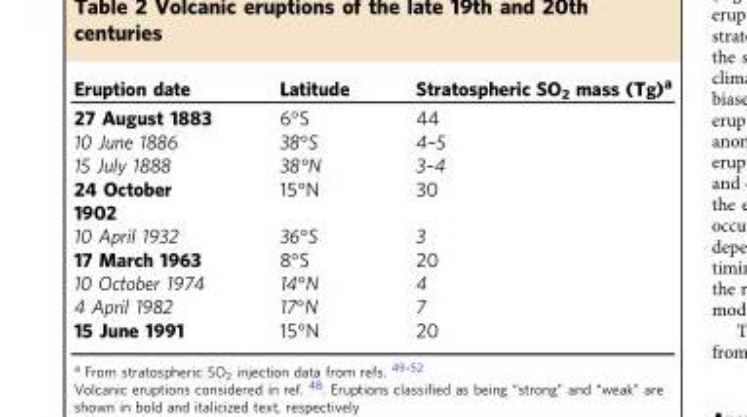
<table><thead><tr><td>Eruption date</td><td>Latitude</td><td>Stratospheric SO<sub>2</sub> mass (Tg)<sup>a</sup></td></tr></thead><tbody><tr><td>27 August 1883</td><td>6°S</td><td>44</td></tr><tr><td>10 June 1886</td><td>38°S</td><td>4–5</td></tr><tr><td>15 July 1888</td><td>38°N</td><td>3–4</td></tr><tr><td>24 October 1902</td><td>15°N</td><td>30</td></tr><tr><td>10 April 1932</td><td>36°S</td><td>3</td></tr><tr><td>17 March 1963</td><td>8°S</td><td>20</td></tr><tr><td>10 October 1974</td><td>14°N</td><td>4</td></tr><tr><td>4 April 1982</td><td>17°N</td><td>7</td></tr><tr><td>15 June 1991</td><td>15°N</td><td>20</td></tr></tbody></table>